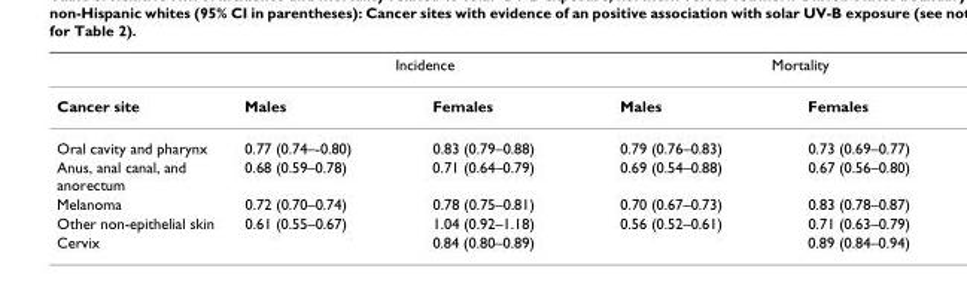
<table><thead><tr><td rowspan="2">Cancer site</td><td colspan="2">Incidence</td><td colspan="2">Mortality</td></tr><tr><td>Males</td><td>Females</td><td>Males</td><td>Females</td></tr></thead><tbody><tr><td>Oral cavity and pharynx</td><td>0.77 (0.74–-0.80)</td><td>0.83 (0.79–0.88)</td><td>0.79 (0.76–0.83)</td><td>0.73 (0.69–0.77)</td></tr><tr><td>Anus, anal canal, and anorectum</td><td>0.68 (0.59–0.78)</td><td>0.71 (0.64–0.79)</td><td>0.69 (0.54–0.88)</td><td>0.67 (0.56–0.80)</td></tr><tr><td>Melanoma</td><td>0.72 (0.70–0.74)</td><td>0.78 (0.75–0.81)</td><td>0.70 (0.67–0.73)</td><td>0.83 (0.78–0.87)</td></tr><tr><td>Other non-epithelial skin</td><td>0.61 (0.55–0.67)</td><td>1.04 (0.92–1.18)</td><td>0.56 (0.52–0.61)</td><td>0.71 (0.63–0.79)</td></tr><tr><td>Cervix</td><td></td><td>0.84 (0.80–0.89)</td><td></td><td>0.89 (0.84–0.94)</td></tr></tbody></table>